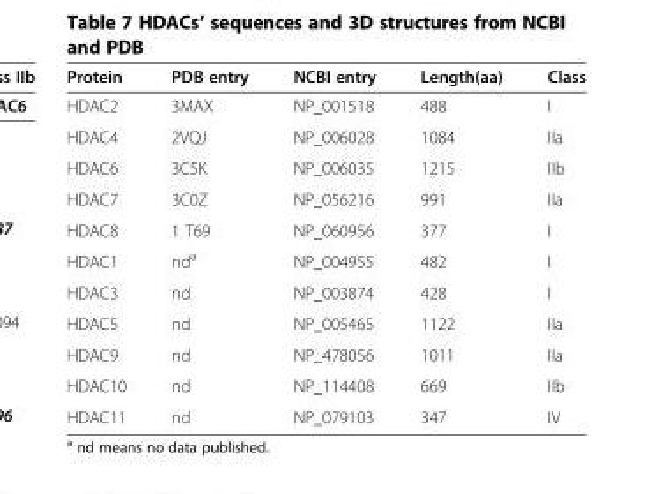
<table><thead><tr><td>Protein</td><td>PDB entry</td><td>NCBI entry</td><td>Length(aa)</td><td>Class</td></tr></thead><tbody><tr><td>HDAC2</td><td>3MAX</td><td>NP_001518</td><td>488</td><td>I</td></tr><tr><td>HDAC4</td><td>2VQJ</td><td>NP_006028</td><td>1084</td><td>IIa</td></tr><tr><td>HDAC6</td><td>3C5K</td><td>NP_006035</td><td>1215</td><td>IIb</td></tr><tr><td>HDAC7</td><td>3C0Z</td><td>NP_056216</td><td>991</td><td>IIa</td></tr><tr><td>HDAC8</td><td>1 T69</td><td>NP_060956</td><td>377</td><td>I</td></tr><tr><td>HDAC1</td><td>nd<sup>a</sup></td><td>NP_004955</td><td>482</td><td>I</td></tr><tr><td>HDAC3</td><td>nd</td><td>NP_003874</td><td>428</td><td>I</td></tr><tr><td>HDAC5</td><td>nd</td><td>NP_005465</td><td>1122</td><td>IIa</td></tr><tr><td>HDAC9</td><td>nd</td><td>NP_478056</td><td>1011</td><td>IIa</td></tr><tr><td>HDAC10</td><td>nd</td><td>NP_114408</td><td>669</td><td>IIb</td></tr><tr><td>HDAC11</td><td>nd</td><td>NP_079103</td><td>347</td><td>IV</td></tr></tbody></table>